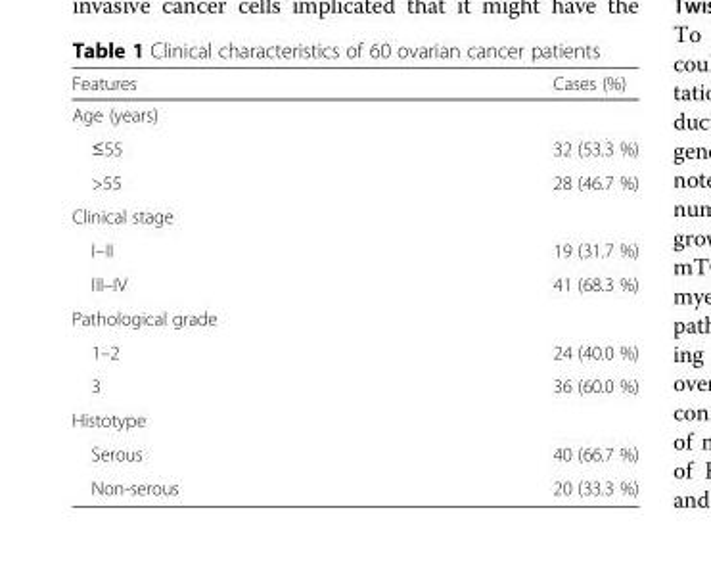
<table><thead><tr><td>Features</td><td>Cases (%)</td></tr></thead><tbody><tr><td colspan="2">Age (years)</td></tr><tr><td>≤55</td><td>32 (53.3 %)</td></tr><tr><td>&gt;55</td><td>28 (46.7 %)</td></tr><tr><td colspan="2">Clinical stage</td></tr><tr><td>I–II</td><td>19 (31.7 %)</td></tr><tr><td>III–IV</td><td>41 (68.3 %)</td></tr><tr><td colspan="2">Pathological grade</td></tr><tr><td>1–2</td><td>24 (40.0 %)</td></tr><tr><td>3</td><td>36 (60.0 %)</td></tr><tr><td colspan="2">Histotype</td></tr><tr><td>Serous</td><td>40 (66.7 %)</td></tr><tr><td>Non-serous</td><td>20 (33.3 %)</td></tr></tbody></table>